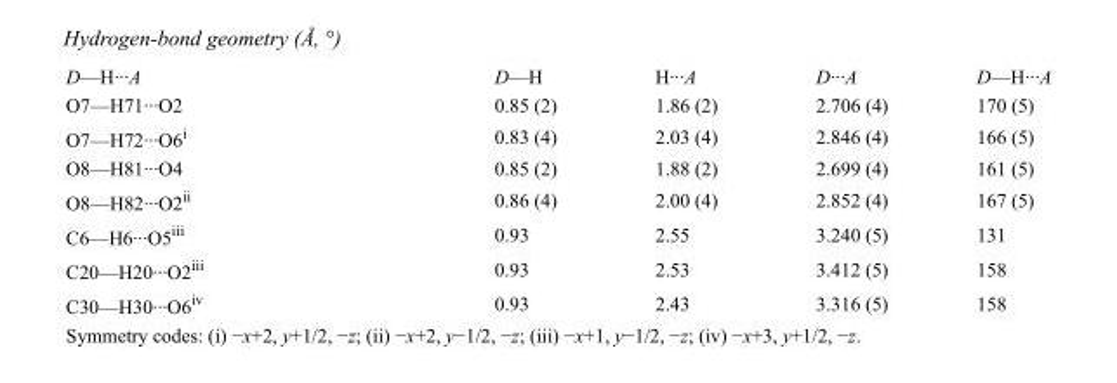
<table><tbody><tr><td>D—H···A</td><td>D—H</td><td>H···A</td><td>D···A</td><td>D—H···A</td></tr><tr><td>O7—H71···O2</td><td>0.85 (2)</td><td>1.86 (2)</td><td>2.706 (4)</td><td>170 (5)</td></tr><tr><td>O7—H72···O6<sup>i</sup></td><td>0.83 (4)</td><td>2.03 (4)</td><td>2.846 (4)</td><td>166 (5)</td></tr><tr><td>O8—H81···O4</td><td>0.85 (2)</td><td>1.88 (2)</td><td>2.699 (4)</td><td>161 (5)</td></tr><tr><td>O8—H82···O2<sup>ii</sup></td><td>0.86 (4)</td><td>2.00 (4)</td><td>2.852 (4)</td><td>167 (5)</td></tr><tr><td>C6—H6···O5<sup>iii</sup></td><td>0.93</td><td>2.55</td><td>3.240 (5)</td><td>131</td></tr><tr><td>C20—H20···O2<sup>iii</sup></td><td>0.93</td><td>2.53</td><td>3.412 (5)</td><td>158</td></tr><tr><td>C30—H30···O6<sup>iv</sup></td><td>0.93</td><td>2.43</td><td>3.316 (5)</td><td>158</td></tr></tbody></table>